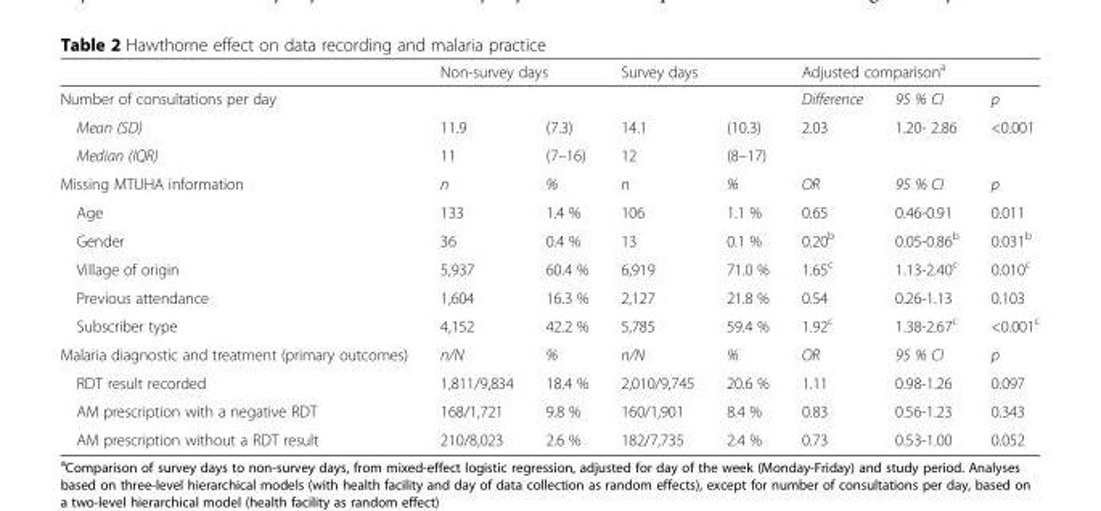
<table><thead><tr><td rowspan="2">Number of consultations per day</td><td colspan="2">Non-survey days</td><td colspan="2">Survey days</td><td colspan="3">Adjusted comparison<sup>a</sup></td></tr><tr><td></td><td></td><td></td><td></td><td>Difference</td><td>95 % CI</td><td>p</td></tr></thead><tbody><tr><td>Mean (SD)</td><td>11.9</td><td>(7.3)</td><td>14.1</td><td>(10.3)</td><td>2.03</td><td>1.20- 2.86</td><td>&lt;0.001</td></tr><tr><td>Median (IQR)</td><td>11</td><td>(7–16)</td><td>12</td><td>(8–17)</td><td></td><td></td><td></td></tr><tr><td>Missing MTUHA information</td><td>n</td><td>%</td><td>n</td><td>%</td><td>OR</td><td>95 % CI</td><td>p</td></tr><tr><td>Age</td><td>133</td><td>1.4 %</td><td>106</td><td>1.1 %</td><td>0.65</td><td>0.46-0.91</td><td>0.011</td></tr><tr><td>Gender</td><td>36</td><td>0.4 %</td><td>13</td><td>0.1 %</td><td>0.20<sup>b</sup></td><td>0.05-0.86<sup>b</sup></td><td>0.031<sup>b</sup></td></tr><tr><td>Village of origin</td><td>5,937</td><td>60.4 %</td><td>6,919</td><td>71.0 %</td><td>1.65<sup>c</sup></td><td>1.13-2.40<sup>c</sup></td><td>0.010<sup>c</sup></td></tr><tr><td>Previous attendance</td><td>1,604</td><td>16.3 %</td><td>2,127</td><td>21.8 %</td><td>0.54</td><td>0.26-1.13</td><td>0.103</td></tr><tr><td>Subscriber type</td><td>4,152</td><td>42.2 %</td><td>5,785</td><td>59.4 %</td><td>1.92<sup>c</sup></td><td>1.38-2.67<sup>c</sup></td><td>&lt;0.001<sup>c</sup></td></tr><tr><td>Malaria diagnostic and treatment (primary outcomes)</td><td>n/N</td><td>%</td><td>n/N</td><td>%</td><td>OR</td><td>95 % CI</td><td>p</td></tr><tr><td>RDT result recorded</td><td>1,811/9,834</td><td>18.4 %</td><td>2,010/9,745</td><td>20.6 %</td><td>1.11</td><td>0.98-1.26</td><td>0.097</td></tr><tr><td>AM prescription with a negative RDT</td><td>168/1,721</td><td>9.8 %</td><td>160/1,901</td><td>8.4 %</td><td>0.83</td><td>0.56-1.23</td><td>0.343</td></tr><tr><td>AM prescription without a RDT result</td><td>210/8,023</td><td>2.6 %</td><td>182/7,735</td><td>2.4 %</td><td>0.73</td><td>0.53-1.00</td><td>0.052</td></tr></tbody></table>